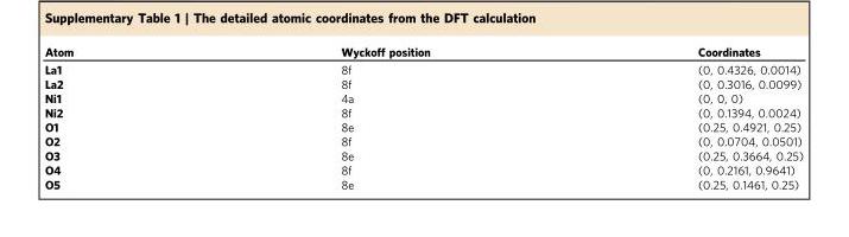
<table><thead><tr><td>Atom</td><td>Wyckoff position</td><td>Coordinates</td></tr></thead><tbody><tr><td>La1</td><td>8f</td><td>(0, 0.4326, 0.0014)</td></tr><tr><td>La2</td><td>8f</td><td>(0, 0.3016, 0.0099)</td></tr><tr><td>Ni1</td><td>4a</td><td>(0, 0, 0)</td></tr><tr><td>Ni2</td><td>8f</td><td>(0, 0.1394, 0.0024)</td></tr><tr><td>O1</td><td>8e</td><td>(0.25, 0.4921, 0.25)</td></tr><tr><td>O2</td><td>8f</td><td>(0, 0.0704, 0.0501)</td></tr><tr><td>O3</td><td>8e</td><td>(0.25, 0.3664, 0.25)</td></tr><tr><td>O4</td><td>8f</td><td>(0, 0.2161, 0.9641)</td></tr><tr><td>O5</td><td>8e</td><td>(0.25, 0.1461, 0.25)</td></tr></tbody></table>